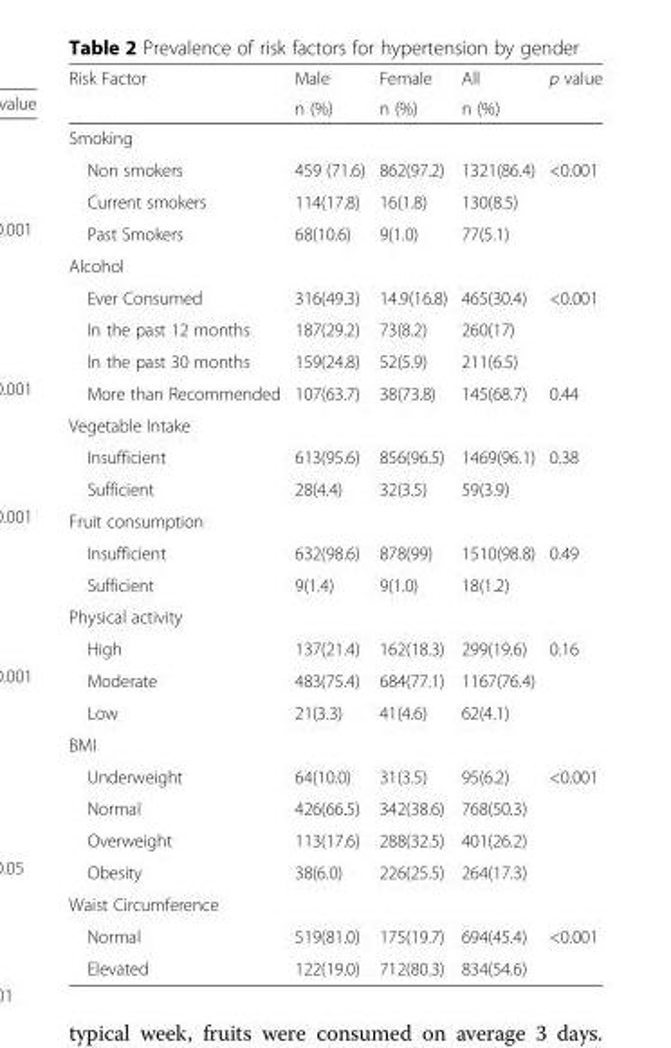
<table><thead><tr><td rowspan="2">Risk Factor</td><td rowspan="2">Male n (%)</td><td rowspan="2">Female n (%)</td><td rowspan="2">All n (%)</td><td rowspan="2">p value</td></tr><tr></tr></thead><tbody><tr><td colspan="5">Smoking</td></tr><tr><td>Non smokers</td><td>459 (71.6)</td><td>862(97.2)</td><td>1321(86.4)</td><td rowspan="3">&lt;0.001</td></tr><tr><td>Current smokers</td><td>114(17.8)</td><td>16(1.8)</td><td>130(8.5)</td></tr><tr><td>Past Smokers</td><td>68(10.6)</td><td>9(1.0)</td><td>77(5.1)</td></tr><tr><td colspan="5">Alcohol</td></tr><tr><td>Ever Consumed</td><td>316(49.3)</td><td>14.9(16.8)</td><td>465(30.4)</td><td rowspan="3">&lt;0.001</td></tr><tr><td>In the past 12 months</td><td>187(29.2)</td><td>73(8.2)</td><td>260(17)</td></tr><tr><td>In the past 30 months</td><td>159(24.8)</td><td>52(5.9)</td><td>211(6.5)</td></tr><tr><td>More than Recommended</td><td>107(63.7)</td><td>38(73.8)</td><td>145(68.7)</td><td>0.44</td></tr><tr><td colspan="5">Vegetable Intake</td></tr><tr><td>Insufficient</td><td>613(95.6)</td><td>856(96.5)</td><td>1469(96.1)</td><td rowspan="2">0.38</td></tr><tr><td>Sufficient</td><td>28(4.4)</td><td>32(3.5)</td><td>59(3.9)</td></tr><tr><td colspan="5">Fruit consumption</td></tr><tr><td>Insufficient</td><td>632(98.6)</td><td>878(99)</td><td>1510(98.8)</td><td rowspan="2">0.49</td></tr><tr><td>Sufficient</td><td>9(1.4)</td><td>9(1.0)</td><td>18(1.2)</td></tr><tr><td colspan="5">Physical activity</td></tr><tr><td>High</td><td>137(21.4)</td><td>162(18.3)</td><td>299(19.6)</td><td rowspan="3">0.16</td></tr><tr><td>Moderate</td><td>483(75.4)</td><td>684(77.1)</td><td>1167(76.4)</td></tr><tr><td>Low</td><td>21(3.3)</td><td>41(4.6)</td><td>62(4.1)</td></tr><tr><td colspan="5">BMI</td></tr><tr><td>Underweight</td><td>64(10.0)</td><td>31(3.5)</td><td>95(6.2)</td><td rowspan="4">&lt;0.001</td></tr><tr><td>Normal</td><td>426(66.5)</td><td>342(38.6)</td><td>768(50.3)</td></tr><tr><td>Overweight</td><td>113(17.6)</td><td>288(32.5)</td><td>401(26.2)</td></tr><tr><td>Obesity</td><td>38(6.0)</td><td>226(25.5)</td><td>264(17.3)</td></tr><tr><td colspan="5">Waist Circumference</td></tr><tr><td>Normal</td><td>519(81.0)</td><td>175(19.7)</td><td>694(45.4)</td><td rowspan="2">&lt;0.001</td></tr><tr><td>Elevated</td><td>122(19.0)</td><td>712(80.3)</td><td>834(54.6)</td></tr></tbody></table>